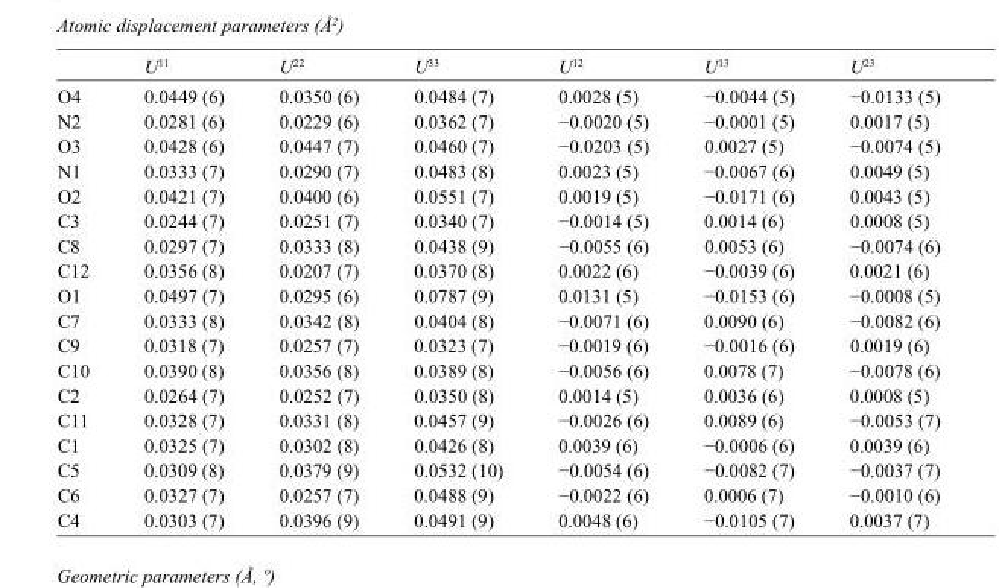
<table><thead><tr><td></td><td>U<sup>11</sup></td><td>U<sup>22</sup></td><td>U<sup>33</sup></td><td>U<sup>12</sup></td><td>U<sup>13</sup></td><td>U<sup>23</sup></td></tr></thead><tbody><tr><td>O4</td><td>0.0449 (6)</td><td>0.0350 (6)</td><td>0.0484 (7)</td><td>0.0028 (5)</td><td>−0.0044 (5)</td><td>−0.0133 (5)</td></tr><tr><td>N2</td><td>0.0281 (6)</td><td>0.0229 (6)</td><td>0.0362 (7)</td><td>−0.0020 (5)</td><td>−0.0001 (5)</td><td>0.0017 (5)</td></tr><tr><td>O3</td><td>0.0428 (6)</td><td>0.0447 (7)</td><td>0.0460 (7)</td><td>−0.0203 (5)</td><td>0.0027 (5)</td><td>−0.0074 (5)</td></tr><tr><td>N1</td><td>0.0333 (7)</td><td>0.0290 (7)</td><td>0.0483 (8)</td><td>0.0023 (5)</td><td>−0.0067 (6)</td><td>0.0049 (5)</td></tr><tr><td>O2</td><td>0.0421 (7)</td><td>0.0400 (6)</td><td>0.0551 (7)</td><td>0.0019 (5)</td><td>−0.0171 (6)</td><td>0.0043 (5)</td></tr><tr><td>C3</td><td>0.0244 (7)</td><td>0.0251 (7)</td><td>0.0340 (7)</td><td>−0.0014 (5)</td><td>0.0014 (6)</td><td>0.0008 (5)</td></tr><tr><td>C8</td><td>0.0297 (7)</td><td>0.0333 (8)</td><td>0.0438 (9)</td><td>−0.0055 (6)</td><td>0.0053 (6)</td><td>−0.0074 (6)</td></tr><tr><td>C12</td><td>0.0356 (8)</td><td>0.0207 (7)</td><td>0.0370 (8)</td><td>0.0022 (6)</td><td>−0.0039 (6)</td><td>0.0021 (6)</td></tr><tr><td>O1</td><td>0.0497 (7)</td><td>0.0295 (6)</td><td>0.0787 (9)</td><td>0.0131 (5)</td><td>−0.0153 (6)</td><td>−0.0008 (5)</td></tr><tr><td>C7</td><td>0.0333 (8)</td><td>0.0342 (8)</td><td>0.0404 (8)</td><td>−0.0071 (6)</td><td>0.0090 (6)</td><td>−0.0082 (6)</td></tr><tr><td>C9</td><td>0.0318 (7)</td><td>0.0257 (7)</td><td>0.0323 (7)</td><td>−0.0019 (6)</td><td>−0.0016 (6)</td><td>0.0019 (6)</td></tr><tr><td>C10</td><td>0.0390 (8)</td><td>0.0356 (8)</td><td>0.0389 (8)</td><td>−0.0056 (6)</td><td>0.0078 (7)</td><td>−0.0078 (6)</td></tr><tr><td>C2</td><td>0.0264 (7)</td><td>0.0252 (7)</td><td>0.0350 (8)</td><td>0.0014 (5)</td><td>0.0036 (6)</td><td>0.0008 (5)</td></tr><tr><td>C11</td><td>0.0328 (7)</td><td>0.0331 (8)</td><td>0.0457 (9)</td><td>−0.0026 (6)</td><td>0.0089 (6)</td><td>−0.0053 (7)</td></tr><tr><td>C1</td><td>0.0325 (7)</td><td>0.0302 (8)</td><td>0.0426 (8)</td><td>0.0039 (6)</td><td>−0.0006 (6)</td><td>0.0039 (6)</td></tr><tr><td>C5</td><td>0.0309 (8)</td><td>0.0379 (9)</td><td>0.0532 (10)</td><td>−0.0054 (6)</td><td>−0.0082 (7)</td><td>−0.0037 (7)</td></tr><tr><td>C6</td><td>0.0327 (7)</td><td>0.0257 (7)</td><td>0.0488 (9)</td><td>−0.0022 (6)</td><td>0.0006 (7)</td><td>−0.0010 (6)</td></tr><tr><td>C4</td><td>0.0303 (7)</td><td>0.0396 (9)</td><td>0.0491 (9)</td><td>0.0048 (6)</td><td>−0.0105 (7)</td><td>0.0037 (7)</td></tr></tbody></table>